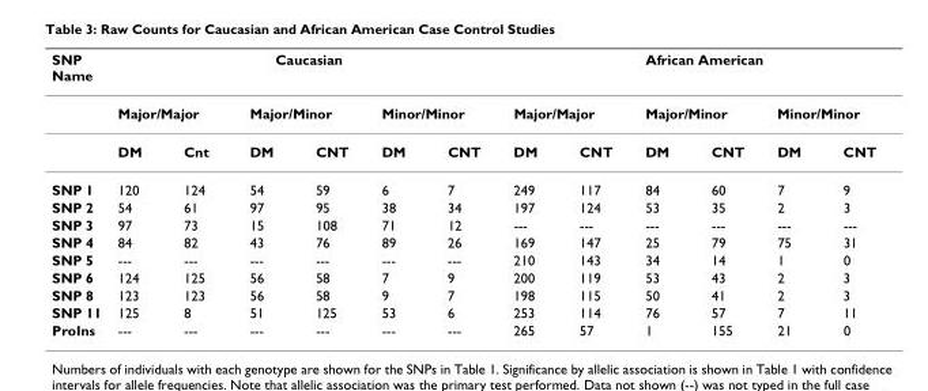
<table><thead><tr><td rowspan="3">SNP Name</td><td colspan="6">Caucasian</td><td colspan="6">African American</td></tr><tr><td colspan="2">Major/Major</td><td colspan="2">Major/Minor</td><td colspan="2">Minor/Minor</td><td colspan="2">Major/Major</td><td colspan="2">Major/Minor</td><td colspan="2">Minor/Minor</td></tr><tr><td>DM</td><td>Cnt</td><td>DM</td><td>CNT</td><td>DM</td><td>CNT</td><td>DM</td><td>CNT</td><td>DM</td><td>CNT</td><td>DM</td><td>CNT</td></tr></thead><tbody><tr><td>SNP 1</td><td>120</td><td>124</td><td>54</td><td>59</td><td>6</td><td>7</td><td>249</td><td>117</td><td>84</td><td>60</td><td>7</td><td>9</td></tr><tr><td>SNP 2</td><td>54</td><td>61</td><td>97</td><td>95</td><td>38</td><td>34</td><td>197</td><td>124</td><td>53</td><td>35</td><td>2</td><td>3</td></tr><tr><td>SNP 3</td><td>97</td><td>73</td><td>15</td><td>108</td><td>71</td><td>12</td><td>---</td><td>---</td><td>---</td><td>---</td><td>---</td><td>---</td></tr><tr><td>SNP 4</td><td>84</td><td>82</td><td>43</td><td>76</td><td>89</td><td>26</td><td>169</td><td>147</td><td>25</td><td>79</td><td>75</td><td>31</td></tr><tr><td>SNP 5</td><td>---</td><td>---</td><td>---</td><td>---</td><td>---</td><td>---</td><td>210</td><td>143</td><td>34</td><td>14</td><td>1</td><td>0</td></tr><tr><td>SNP 6</td><td>124</td><td>125</td><td>56</td><td>58</td><td>7</td><td>9</td><td>200</td><td>119</td><td>53</td><td>43</td><td>2</td><td>3</td></tr><tr><td>SNP 8</td><td>123</td><td>123</td><td>56</td><td>58</td><td>9</td><td>7</td><td>198</td><td>115</td><td>50</td><td>41</td><td>2</td><td>3</td></tr><tr><td>SNP 11</td><td>125</td><td>8</td><td>51</td><td>125</td><td>53</td><td>6</td><td>253</td><td>114</td><td>76</td><td>57</td><td>7</td><td>11</td></tr><tr><td>ProIns</td><td>---</td><td>---</td><td>---</td><td>---</td><td>---</td><td>---</td><td>265</td><td>57</td><td>1</td><td>155</td><td>21</td><td>0</td></tr></tbody></table>